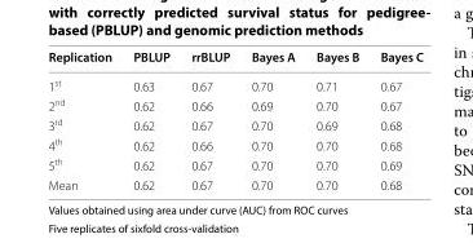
<table><thead><tr><td>Replication</td><td>PBLUP</td><td>rrBLUP</td><td>Bayes A</td><td>Bayes B</td><td>Bayes C</td></tr></thead><tbody><tr><td>1<sup>st</sup></td><td>0.63</td><td>0.67</td><td>0.70</td><td>0.71</td><td>0.67</td></tr><tr><td>2<sup>nd</sup></td><td>0.62</td><td>0.66</td><td>0.69</td><td>0.70</td><td>0.67</td></tr><tr><td>3<sup>rd</sup></td><td>0.62</td><td>0.67</td><td>0.70</td><td>0.69</td><td>0.68</td></tr><tr><td>4<sup>th</sup></td><td>0.62</td><td>0.66</td><td>0.70</td><td>0.70</td><td>0.68</td></tr><tr><td>5<sup>th</sup></td><td>0.62</td><td>0.67</td><td>0.70</td><td>0.70</td><td>0.69</td></tr><tr><td>Mean</td><td>0.62</td><td>0.67</td><td>0.70</td><td>0.70</td><td>0.68</td></tr></tbody></table>